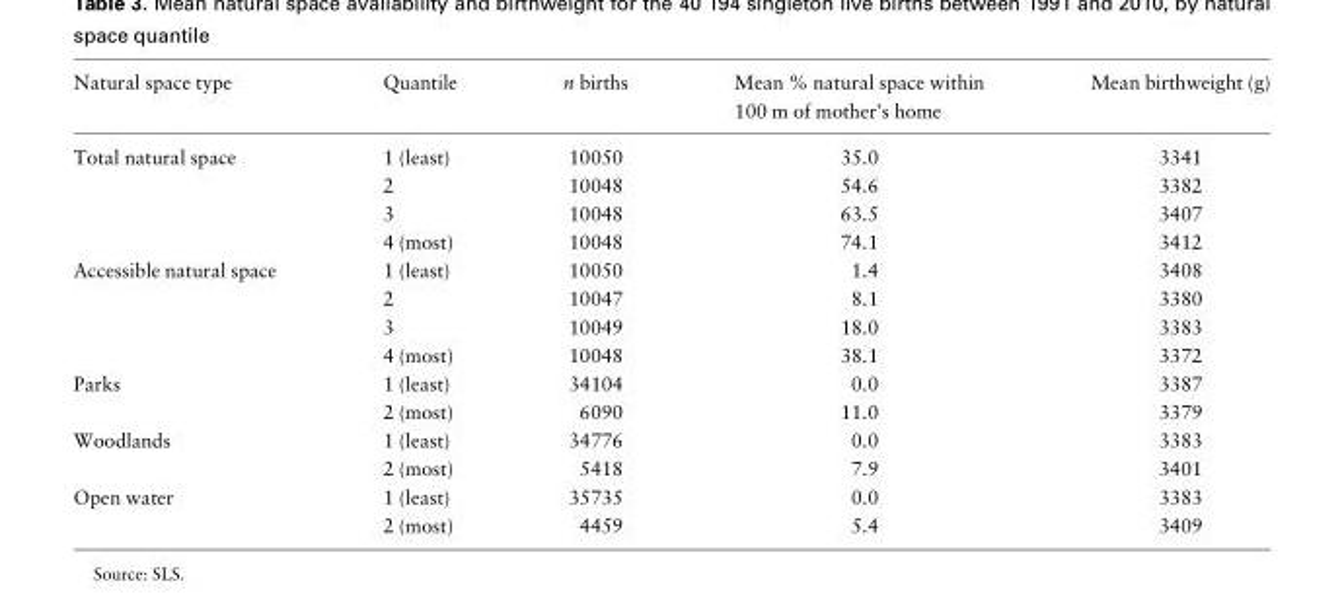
<table><thead><tr><td>Natural space type</td><td>Quantile</td><td>n births</td><td>Mean % natural space within 100 m of mother’s home</td><td>Mean birthweight (g)</td></tr></thead><tbody><tr><td rowspan="4">Total natural space</td><td>1 (least)</td><td>10050</td><td>35.0</td><td>3341</td></tr><tr><td>2</td><td>10048</td><td>54.6</td><td>3382</td></tr><tr><td>3</td><td>10048</td><td>63.5</td><td>3407</td></tr><tr><td>4 (most)</td><td>10048</td><td>74.1</td><td>3412</td></tr><tr><td rowspan="4">Accessible natural space</td><td>1 (least)</td><td>10050</td><td>1.4</td><td>3408</td></tr><tr><td>2</td><td>10047</td><td>8.1</td><td>3380</td></tr><tr><td>3</td><td>10049</td><td>18.0</td><td>3383</td></tr><tr><td>4 (most)</td><td>10048</td><td>38.1</td><td>3372</td></tr><tr><td rowspan="2">Parks</td><td>1 (least)</td><td>34104</td><td>0.0</td><td>3387</td></tr><tr><td>2 (most)</td><td>6090</td><td>11.0</td><td>3379</td></tr><tr><td rowspan="2">Woodlands</td><td>1 (least)</td><td>34776</td><td>0.0</td><td>3383</td></tr><tr><td>2 (most)</td><td>5418</td><td>7.9</td><td>3401</td></tr><tr><td rowspan="2">Open water</td><td>1 (least)</td><td>35735</td><td>0.0</td><td>3383</td></tr><tr><td>2 (most)</td><td>4459</td><td>5.4</td><td>3409</td></tr></tbody></table>